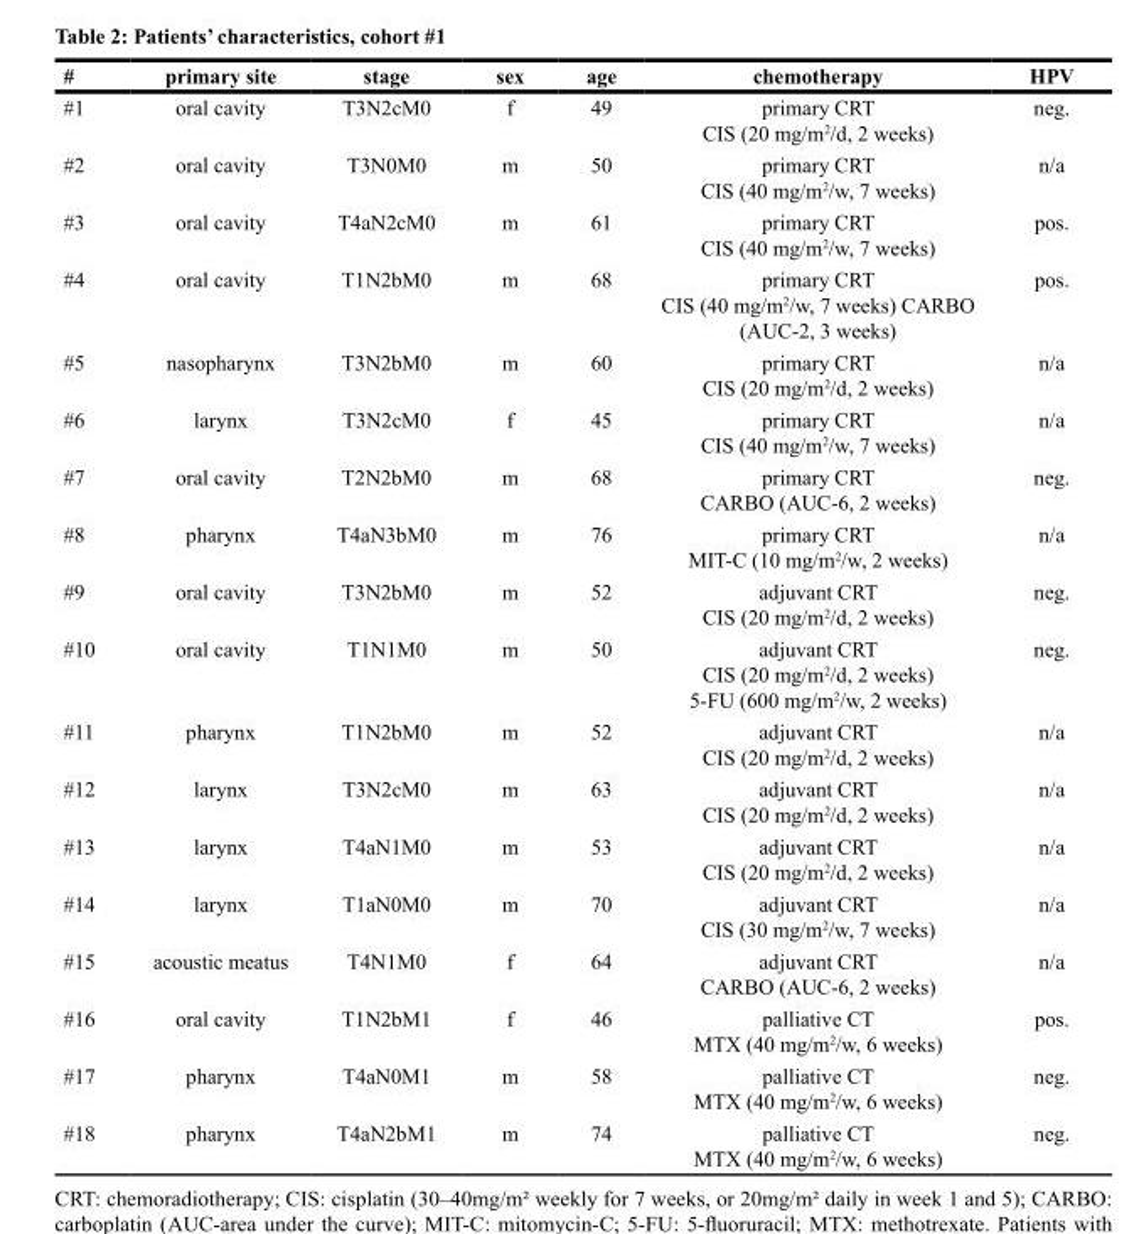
<table><thead><tr><td>#</td><td>primary site</td><td>stage</td><td>sex</td><td>age</td><td>chemotherapy</td><td>HPV</td></tr></thead><tbody><tr><td>#1</td><td>oral cavity</td><td>T3N2cM0</td><td>f</td><td>49</td><td>primary CRT CIS (20 mg/m<sup>2</sup>/d, 2 weeks)</td><td>neg.</td></tr><tr><td>#2</td><td>oral cavity</td><td>T3N0M0</td><td>m</td><td>50</td><td>primary CRT CIS (40 mg/m<sup>2</sup>/w, 7 weeks)</td><td>n/a</td></tr><tr><td>#3</td><td>oral cavity</td><td>T4aN2cM0</td><td>m</td><td>61</td><td>primary CRT CIS (40 mg/m<sup>2</sup>/w, 7 weeks)</td><td>pos.</td></tr><tr><td>#4</td><td>oral cavity</td><td>T1N2bM0</td><td>m</td><td>68</td><td>primary CRT CIS (40 mg/m<sup>2</sup>/w, 7 weeks) CARBO (AUC-2, 3 weeks)</td><td>pos.</td></tr><tr><td>#5</td><td>nasopharynx</td><td>T3N2bM0</td><td>m</td><td>60</td><td>primary CRT CIS (20 mg/m<sup>2</sup>/d, 2 weeks)</td><td>n/a</td></tr><tr><td>#6</td><td>larynx</td><td>T3N2cM0</td><td>f</td><td>45</td><td>primary CRT CIS (40 mg/m<sup>2</sup>/w, 7 weeks)</td><td>n/a</td></tr><tr><td>#7</td><td>oral cavity</td><td>T2N2bM0</td><td>m</td><td>68</td><td>primary CRT CARBO (AUC-6, 2 weeks)</td><td>neg.</td></tr><tr><td>#8</td><td>pharynx</td><td>T4aN3bM0</td><td>m</td><td>76</td><td>primary CRT MIT-C (10 mg/m<sup>2</sup>/w, 2 weeks)</td><td>n/a</td></tr><tr><td>#9</td><td>oral cavity</td><td>T3N2bM0</td><td>m</td><td>52</td><td>adjuvant CRT CIS (20 mg/m<sup>2</sup>/d, 2 weeks)</td><td>neg.</td></tr><tr><td>#10</td><td>oral cavity</td><td>T1N1M0</td><td>m</td><td>50</td><td>adjuvant CRT CIS (20 mg/m<sup>2</sup>/d, 2 weeks) 5-FU (600 mg/m<sup>2</sup>/w, 2 weeks)</td><td>neg.</td></tr><tr><td>#11</td><td>pharynx</td><td>T1N2bM0</td><td>m</td><td>52</td><td>adjuvant CRT CIS (20 mg/m<sup>2</sup>/d, 2 weeks)</td><td>n/a</td></tr><tr><td>#12</td><td>larynx</td><td>T3N2cM0</td><td>m</td><td>63</td><td>adjuvant CRT CIS (20 mg/m<sup>2</sup>/d, 2 weeks)</td><td>n/a</td></tr><tr><td>#13</td><td>larynx</td><td>T4aN1M0</td><td>m</td><td>53</td><td>adjuvant CRT CIS (20 mg/m<sup>2</sup>/d, 2 weeks)</td><td>n/a</td></tr><tr><td>#14</td><td>larynx</td><td>T1aN0M0</td><td>m</td><td>70</td><td>adjuvant CRT CIS (30 mg/m<sup>2</sup>/w, 7 weeks)</td><td>n/a</td></tr><tr><td>#15</td><td>acoustic meatus</td><td>T4N1M0</td><td>f</td><td>64</td><td>adjuvant CRT CARBO (AUC-6, 2 weeks)</td><td>n/a</td></tr><tr><td>#16</td><td>oral cavity</td><td>T1N2bM1</td><td>f</td><td>46</td><td>palliative CT MTX (40 mg/m<sup>2</sup>/w, 6 weeks)</td><td>pos.</td></tr><tr><td>#17</td><td>pharynx</td><td>T4aN0M1</td><td>m</td><td>58</td><td>palliative CT MTX (40 mg/m<sup>2</sup>/w, 6 weeks)</td><td>neg.</td></tr><tr><td>#18</td><td>pharynx</td><td>T4aN2bM1</td><td>m</td><td>74</td><td>palliative CT MTX (40 mg/m<sup>2</sup>/w, 6 weeks)</td><td>neg.</td></tr></tbody></table>